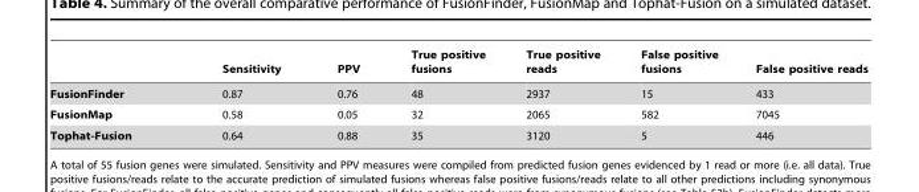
<table><thead><tr><td></td><td>Sensitivity</td><td>PPV</td><td>True positive fusions</td><td>True positive reads</td><td>False positive fusions</td><td>False positive reads</td></tr></thead><tbody><tr><td>FusionFinder</td><td>0.87</td><td>0.76</td><td>48</td><td>2937</td><td>15</td><td>433</td></tr><tr><td>FusionMap</td><td>0.58</td><td>0.05</td><td>32</td><td>2065</td><td>582</td><td>7045</td></tr><tr><td>Tophat-Fusion</td><td>0.64</td><td>0.88</td><td>35</td><td>3120</td><td>5</td><td>446</td></tr></tbody></table>